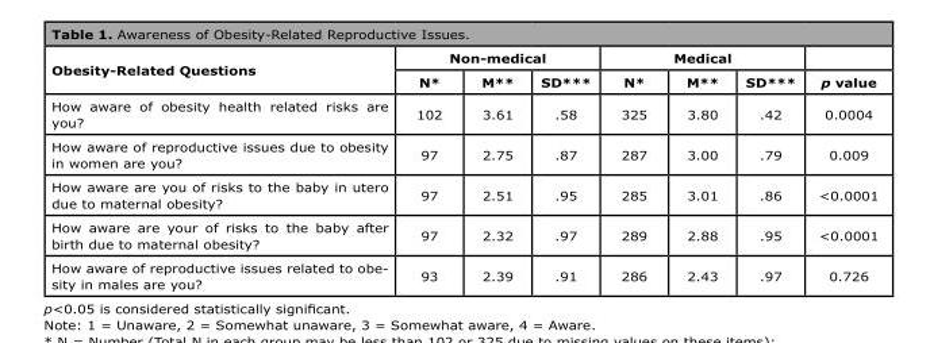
<table><thead><tr><td rowspan="2">Obesity-Related Questions</td><td colspan="3">Non-medical</td><td colspan="3">Medical</td><td rowspan="2">p value</td></tr><tr><td>N*</td><td>M**</td><td>SD***</td><td>N*</td><td>M**</td><td>SD***</td></tr></thead><tbody><tr><td>How aware of obesity health related risks are you?</td><td>102</td><td>3.61</td><td>.58</td><td>325</td><td>3.80</td><td>.42</td><td>0.0004</td></tr><tr><td>How aware of reproductive issues due to obesity in women are you?</td><td>97</td><td>2.75</td><td>.87</td><td>287</td><td>3.00</td><td>.79</td><td>0.009</td></tr><tr><td>How aware are you of risks to the baby in utero due to maternal obesity?</td><td>97</td><td>2.51</td><td>.95</td><td>285</td><td>3.01</td><td>.86</td><td>&lt;0.0001</td></tr><tr><td>How aware are your of risks to the baby after birth due to maternal obesity?</td><td>97</td><td>2.32</td><td>.97</td><td>289</td><td>2.88</td><td>.95</td><td>&lt;0.0001</td></tr><tr><td>How aware of reproductive issues related to obe- sity in males are you?</td><td>93</td><td>2.39</td><td>.91</td><td>286</td><td>2.43</td><td>.97</td><td>0.726</td></tr></tbody></table>